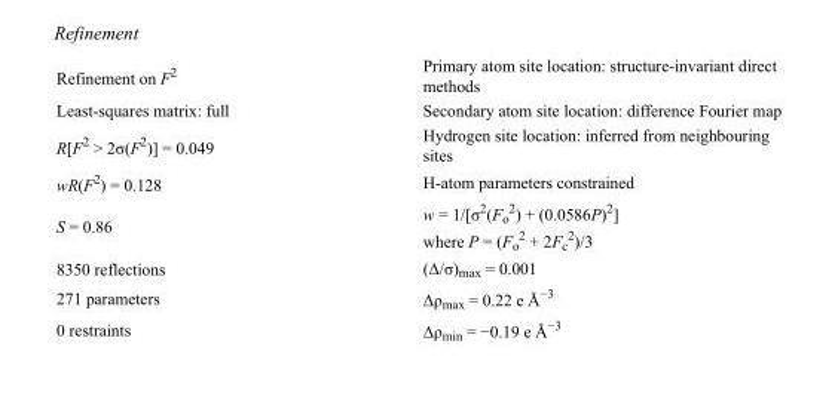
<table><tbody><tr><td>Refinement on F<sup>2</sup></td><td>Primary atom site location: structure-invariant direct methods</td></tr><tr><td>Least-squares matrix: full</td><td>Secondary atom site location: difference Fourier map</td></tr><tr><td>R[F<sup>2</sup> &gt; 2σ(F<sup>2</sup>)] = 0.049</td><td>Hydrogen site location: inferred from neighbouring sites</td></tr><tr><td>wR(F<sup>2</sup>) = 0.128</td><td>H-atom parameters constrained</td></tr><tr><td>S = 0.86</td><td>w = 1/[σ<sup>2</sup>(F<sub>o</sub> <sup>2</sup>) + (0.0586P)<sup>2</sup>] where P = (F<sub>o</sub> <sup>2</sup> + 2F<sub>c</sub> <sup>2</sup>)/3</td></tr><tr><td>8350 reflections</td><td>(Δ/σ)<sub>max</sub> = 0.001</td></tr><tr><td>271 parameters</td><td>Δρ<sub>max</sub> = 0.22 e Å<sup>−3</sup></td></tr><tr><td>0 restraints</td><td>Δρ<sub>min</sub> = −0.19 e Å<sup>−3</sup></td></tr></tbody></table>